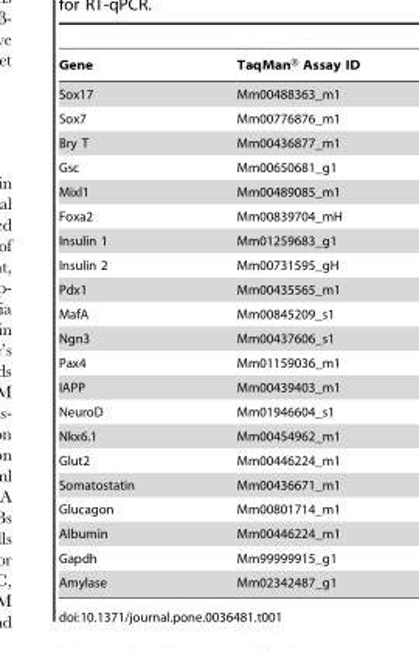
<table><thead><tr><td>Gene</td><td>TaqMan® Assay ID</td></tr></thead><tbody><tr><td>Sox17</td><td>Mm00488363_m1</td></tr><tr><td>Sox7</td><td>Mm00776876_m1</td></tr><tr><td>Bry T</td><td>Mm00436877_m1</td></tr><tr><td>Gsc</td><td>Mm00650681_g1</td></tr><tr><td>Mixl1</td><td>Mm00489085_m1</td></tr><tr><td>Foxa2</td><td>Mm00839704_mH</td></tr><tr><td>Insulin 1</td><td>Mm01259683_g1</td></tr><tr><td>Insulin 2</td><td>Mm00731595_gH</td></tr><tr><td>Pdx1</td><td>Mm00435565_m1</td></tr><tr><td>MafA</td><td>Mm00845209_s1</td></tr><tr><td>Ngn3</td><td>Mm00437606_s1</td></tr><tr><td>Pax4</td><td>Mm01159036_m1</td></tr><tr><td>IAPP</td><td>Mm00439403_m1</td></tr><tr><td>NeuroD</td><td>Mm01946604_s1</td></tr><tr><td>Nkx6.1</td><td>Mm00454962_m1</td></tr><tr><td>Glut2</td><td>Mm00446224_m1</td></tr><tr><td>Somatostatin</td><td>Mm00436671_m1</td></tr><tr><td>Glucagon</td><td>Mm00801714_m1</td></tr><tr><td>Albumin</td><td>Mm00446224_m1</td></tr><tr><td>Gapdh</td><td>Mm99999915_g1</td></tr><tr><td>Amylase</td><td>Mm02342487_g1</td></tr></tbody></table>